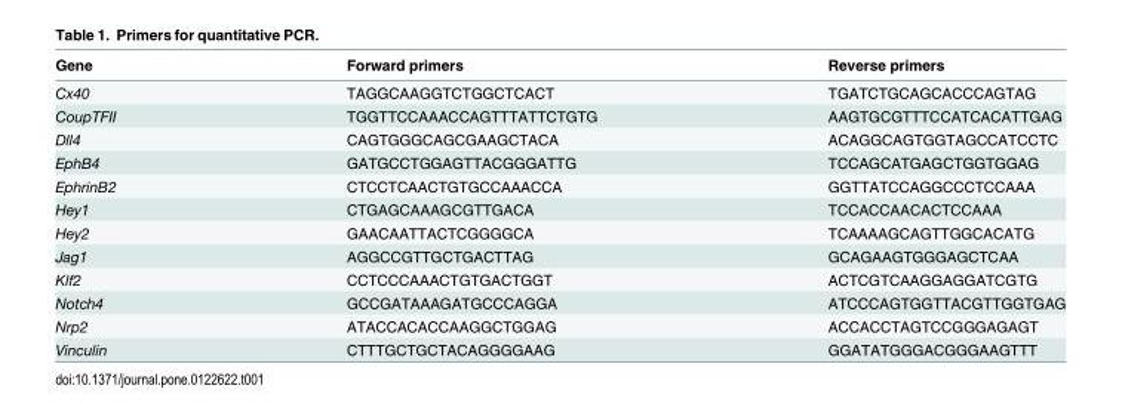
<table><thead><tr><td>Gene</td><td>Forward primers</td><td>Reverse primers</td></tr></thead><tbody><tr><td>Cx40</td><td>TAGGCAAGGTCTGGCTCACT</td><td>TGATCTGCAGCACCCAGTAG</td></tr><tr><td>CoupTFII</td><td>TGGTTCCAAACCAGTTTATTCTGTG</td><td>AAGTGCGTTTCCATCACATTGAG</td></tr><tr><td>Dll4</td><td>CAGTGGGCAGCGAAGCTACA</td><td>ACAGGCAGTGGTAGCCATCCTC</td></tr><tr><td>EphB4</td><td>GATGCCTGGAGTTACGGGATTG</td><td>TCCAGCATGAGCTGGTGGAG</td></tr><tr><td>EphrinB2</td><td>CTCCTCAACTGTGCCAAACCA</td><td>GGTTATCCAGGCCCTCCAAA</td></tr><tr><td>Hey1</td><td>CTGAGCAAAGCGTTGACA</td><td>TCCACCAACACTCCAAA</td></tr><tr><td>Hey2</td><td>GAACAATTACTCGGGGCA</td><td>TCAAAAGCAGTTGGCACATG</td></tr><tr><td>Jag1</td><td>AGGCCGTTGCTGACTTAG</td><td>GCAGAAGTGGGAGCTCAA</td></tr><tr><td>Klf2</td><td>CCTCCCAAACTGTGACTGGT</td><td>ACTCGTCAAGGAGGATCGTG</td></tr><tr><td>Notch4</td><td>GCCGATAAAGATGCCCAGGA</td><td>ATCCCAGTGGTTACGTTGGTGAG</td></tr><tr><td>Nrp2</td><td>ATACCACACCAAGGCTGGAG</td><td>ACCACCTAGTCCGGGAGAGT</td></tr><tr><td>Vinculin</td><td>CTTTGCTGCTACAGGGGAAG</td><td>GGATATGGGACGGGAAGTTT</td></tr></tbody></table>